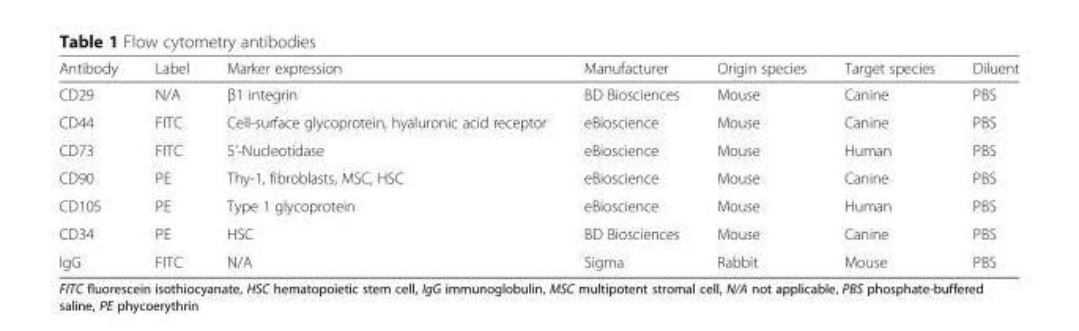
<table><thead><tr><td>Antibody</td><td>Label</td><td>Marker expression</td><td>Manufacturer</td><td>Origin species</td><td>Target species</td><td>Diluent</td></tr></thead><tbody><tr><td>CD29</td><td>N/A</td><td>β1 integrin</td><td>BD Biosciences</td><td>Mouse</td><td>Canine</td><td>PBS</td></tr><tr><td>CD44</td><td>FITC</td><td>Cell-surface glycoprotein, hyaluronic acid receptor</td><td>eBioscience</td><td>Mouse</td><td>Canine</td><td>PBS</td></tr><tr><td>CD73</td><td>FITC</td><td>5’-Nucleotidase</td><td>eBioscience</td><td>Mouse</td><td>Human</td><td>PBS</td></tr><tr><td>CD90</td><td>PE</td><td>Thy-1, fibroblasts, MSC, HSC</td><td>eBioscience</td><td>Mouse</td><td>Canine</td><td>PBS</td></tr><tr><td>CD105</td><td>PE</td><td>Type 1 glycoprotein</td><td>eBioscience</td><td>Mouse</td><td>Human</td><td>PBS</td></tr><tr><td>CD34</td><td>PE</td><td>HSC</td><td>BD Biosciences</td><td>Mouse</td><td>Canine</td><td>PBS</td></tr><tr><td>IgG</td><td>FITC</td><td>N/A</td><td>Sigma</td><td>Rabbit</td><td>Mouse</td><td>PBS</td></tr></tbody></table>